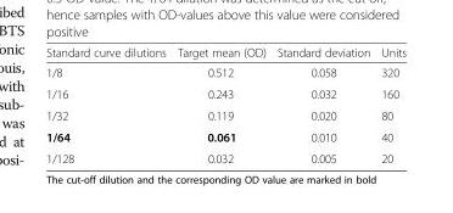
<table><thead><tr><td>Standard curve dilutions</td><td>Target mean (OD)</td><td>Standard deviation</td><td>Units</td></tr></thead><tbody><tr><td>1/8</td><td>0.512</td><td>0.058</td><td>320</td></tr><tr><td>1/16</td><td>0.243</td><td>0.032</td><td>160</td></tr><tr><td>1/32</td><td>0.119</td><td>0.020</td><td>80</td></tr><tr><td>1/64</td><td>0.061</td><td>0.010</td><td>40</td></tr><tr><td>1/128</td><td>0.032</td><td>0.005</td><td>20</td></tr></tbody></table>